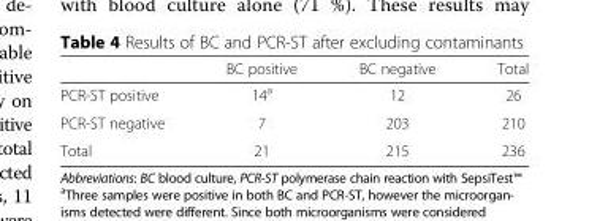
<table><thead><tr><td></td><td>BC positive</td><td>BC negative</td><td>Total</td></tr></thead><tbody><tr><td>PCR-ST positive</td><td>14<sup>a</sup></td><td>12</td><td>26</td></tr><tr><td>PCR-ST negative</td><td>7</td><td>203</td><td>210</td></tr><tr><td>Total</td><td>21</td><td>215</td><td>236</td></tr></tbody></table>